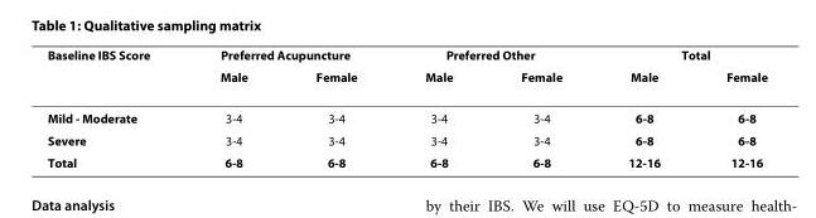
<table><thead><tr><td rowspan="2">Baseline IBS Score</td><td colspan="2">Preferred Acupuncture</td><td colspan="2">Preferred Other</td><td colspan="2">Total</td></tr><tr><td>Male</td><td>Female</td><td>Male</td><td>Female</td><td>Male</td><td>Female</td></tr></thead><tbody><tr><td>Mild - Moderate</td><td>3-4</td><td>3-4</td><td>3-4</td><td>3-4</td><td>6-8</td><td>6-8</td></tr><tr><td>Severe</td><td>3-4</td><td>3-4</td><td>3-4</td><td>3-4</td><td>6-8</td><td>6-8</td></tr><tr><td>Total</td><td>6-8</td><td>6-8</td><td>6-8</td><td>6-8</td><td>12-16</td><td>12-16</td></tr></tbody></table>